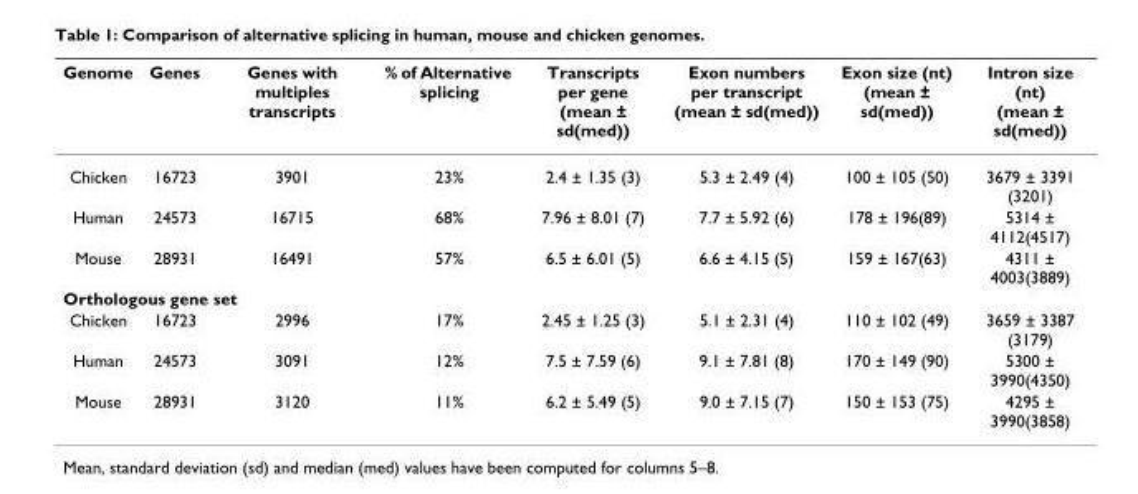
<table><thead><tr><td>Genome</td><td>Genes</td><td>Genes with multiples transcripts</td><td>% of Alternative splicing</td><td>Transcripts per gene (mean ± sd(med))</td><td>Exon numbers per transcript (mean ± sd(med))</td><td>Exon size (nt) (mean ± sd(med))</td><td>Intron size (nt) (mean ± sd(med))</td></tr></thead><tbody><tr><td>Chicken</td><td>16723</td><td>3901</td><td>23%</td><td>2.4 ± 1.35 (3)</td><td>5.3 ± 2.49 (4)</td><td>100 ± 105 (50)</td><td>3679 ± 3391 (3201)</td></tr><tr><td>Human</td><td>24573</td><td>16715</td><td>68%</td><td>7.96 ± 8.01 (7)</td><td>7.7 ± 5.92 (6)</td><td>178 ± 196(89)</td><td>5314 ± 4112(4517)</td></tr><tr><td>Mouse</td><td>28931</td><td>16491</td><td>57%</td><td>6.5 ± 6.01 (5)</td><td>6.6 ± 4.15 (5)</td><td>159 ± 167(63)</td><td>4311 ± 4003(3889)</td></tr><tr><td colspan="8">Orthologous gene set</td></tr><tr><td>Chicken</td><td>16723</td><td>2996</td><td>17%</td><td>2.45 ± 1.25 (3)</td><td>5.1 ± 2.31 (4)</td><td>110 ± 102 (49)</td><td>3659 ± 3387 (3179)</td></tr><tr><td>Human</td><td>24573</td><td>3091</td><td>12%</td><td>7.5 ± 7.59 (6)</td><td>9.1 ± 7.81 (8)</td><td>170 ± 149 (90)</td><td>5300 ± 3990(4350)</td></tr><tr><td>Mouse</td><td>28931</td><td>3120</td><td>11%</td><td>6.2 ± 5.49 (5)</td><td>9.0 ± 7.15 (7)</td><td>150 ± 153 (75)</td><td>4295 ± 3990(3858)</td></tr></tbody></table>